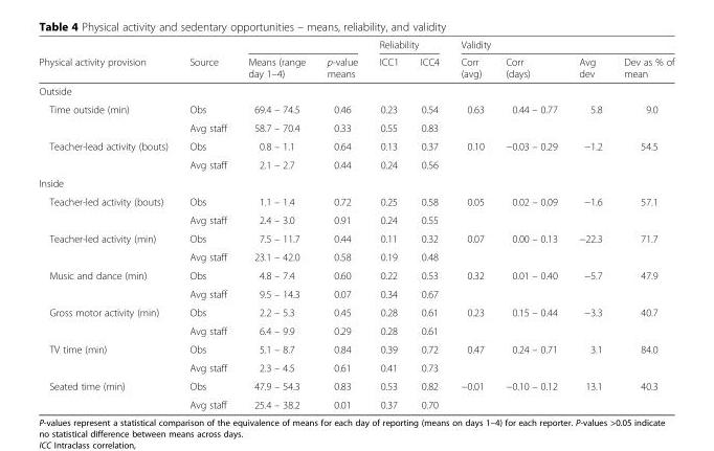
<table><thead><tr><td rowspan="2">Physical activity provision</td><td rowspan="2">Source</td><td rowspan="2">Means (range day 1–4)</td><td rowspan="2">p-value means</td><td colspan="2">Reliability</td><td colspan="4">Validity</td></tr><tr><td>ICC1</td><td>ICC4</td><td>Corr (avg)</td><td>Corr (days)</td><td>Avg dev</td><td>Dev as % of mean</td></tr></thead><tbody><tr><td colspan="10">Outside</td></tr><tr><td rowspan="2">Time outside (min)</td><td>Obs</td><td>69.4 – 74.5</td><td>0.46</td><td>0.23</td><td>0.54</td><td>0.63</td><td>0.44 – 0.77</td><td>5.8</td><td>9.0</td></tr><tr><td>Avg staff</td><td>58.7 – 70.4</td><td>0.33</td><td>0.55</td><td>0.83</td><td></td><td></td><td></td><td></td></tr><tr><td rowspan="2">Teacher-lead activity (bouts)</td><td>Obs</td><td>0.8 – 1.1</td><td>0.64</td><td>0.13</td><td>0.37</td><td>0.10</td><td>−0.03 – 0.29</td><td>−1.2</td><td>54.5</td></tr><tr><td>Avg staff</td><td>2.1 – 2.7</td><td>0.44</td><td>0.24</td><td>0.56</td><td></td><td></td><td></td><td></td></tr><tr><td colspan="10">Inside</td></tr><tr><td rowspan="2">Teacher-led activity (bouts)</td><td>Obs</td><td>1.1 – 1.4</td><td>0.72</td><td>0.25</td><td>0.58</td><td>0.05</td><td>0.02 – 0.09</td><td>−1.6</td><td>57.1</td></tr><tr><td>Avg staff</td><td>2.4 – 3.0</td><td>0.91</td><td>0.24</td><td>0.55</td><td></td><td></td><td></td><td></td></tr><tr><td rowspan="2">Teacher-led activity (min)</td><td>Obs</td><td>7.5 – 11.7</td><td>0.44</td><td>0.11</td><td>0.32</td><td>0.07</td><td>0.00 – 0.13</td><td>−22.3</td><td>71.7</td></tr><tr><td>Avg staff</td><td>23.1 – 42.0</td><td>0.58</td><td>0.19</td><td>0.48</td><td></td><td></td><td></td><td></td></tr><tr><td rowspan="2">Music and dance (min)</td><td>Obs</td><td>4.8 – 7.4</td><td>0.60</td><td>0.22</td><td>0.53</td><td>0.32</td><td>0.01 – 0.40</td><td>−5.7</td><td>47.9</td></tr><tr><td>Avg staff</td><td>9.5 – 14.3</td><td>0.07</td><td>0.34</td><td>0.67</td><td></td><td></td><td></td><td></td></tr><tr><td rowspan="2">Gross motor activity (min)</td><td>Obs</td><td>2.2 – 5.3</td><td>0.45</td><td>0.28</td><td>0.61</td><td>0.23</td><td>0.15 – 0.44</td><td>−3.3</td><td>40.7</td></tr><tr><td>Avg staff</td><td>6.4 – 9.9</td><td>0.29</td><td>0.28</td><td>0.61</td><td></td><td></td><td></td><td></td></tr><tr><td rowspan="2">TV time (min)</td><td>Obs</td><td>5.1 – 8.7</td><td>0.84</td><td>0.39</td><td>0.72</td><td>0.47</td><td>0.24 – 0.71</td><td>3.1</td><td>84.0</td></tr><tr><td>Avg staff</td><td>2.3 – 4.5</td><td>0.61</td><td>0.41</td><td>0.73</td><td></td><td></td><td></td><td></td></tr><tr><td rowspan="2">Seated time (min)</td><td>Obs</td><td>47.9 – 54.3</td><td>0.83</td><td>0.53</td><td>0.82</td><td>−0.01</td><td>−0.10 – 0.12</td><td>13.1</td><td>40.3</td></tr><tr><td>Avg staff</td><td>25.4 – 38.2</td><td>0.01</td><td>0.37</td><td>0.70</td><td></td><td></td><td></td><td></td></tr></tbody></table>